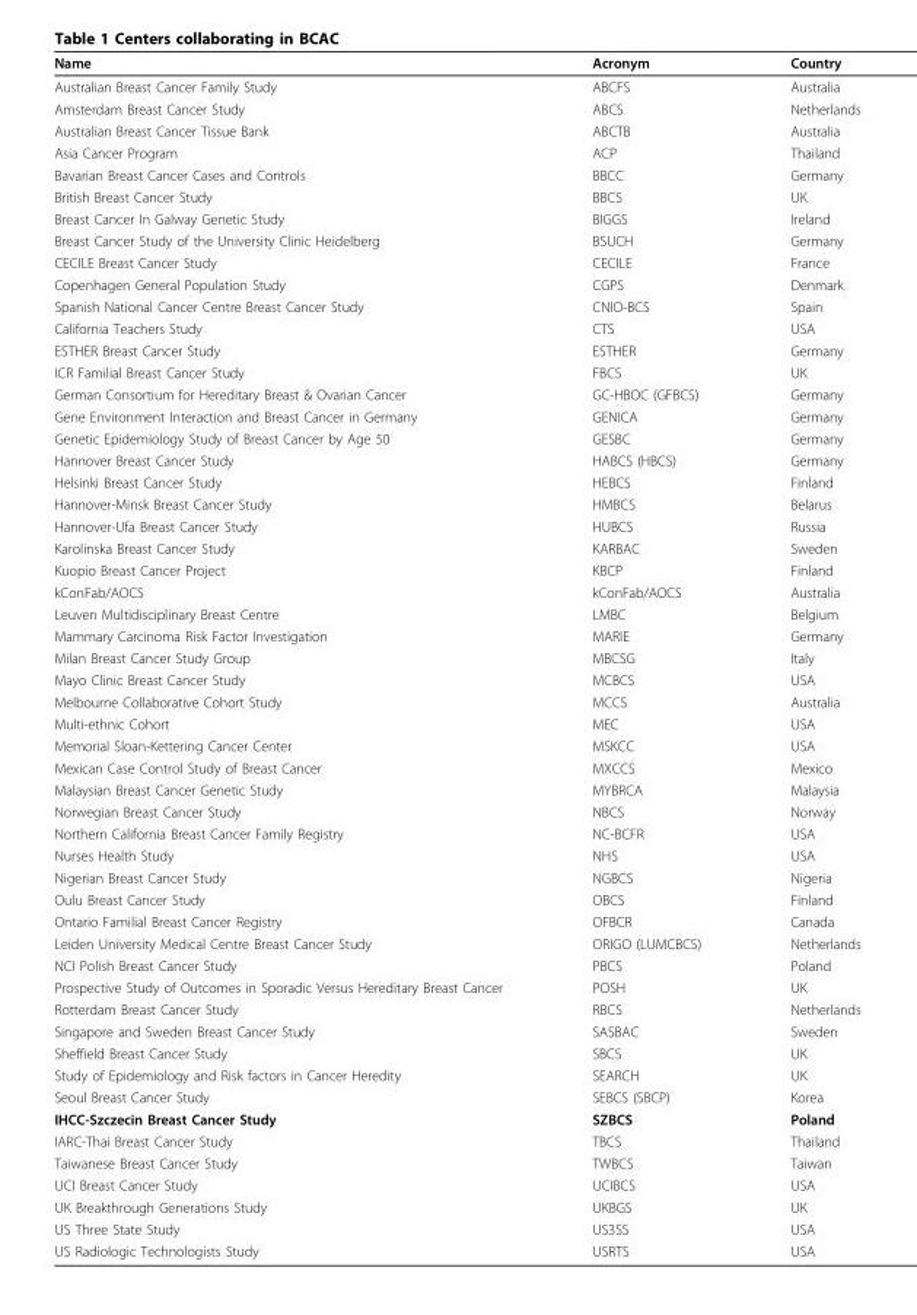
<table><thead><tr><td>Name</td><td>Acronym</td><td>Country</td></tr></thead><tbody><tr><td>Australian Breast Cancer Family Study</td><td>ABCFS</td><td>Australia</td></tr><tr><td>Amsterdam Breast Cancer Study</td><td>ABCS</td><td>Netherlands</td></tr><tr><td>Australian Breast Cancer Tissue Bank</td><td>ABCTB</td><td>Australia</td></tr><tr><td>Asia Cancer Program</td><td>ACP</td><td>Thailand</td></tr><tr><td>Bavarian Breast Cancer Cases and Controls</td><td>BBCC</td><td>Germany</td></tr><tr><td>British Breast Cancer Study</td><td>BBCS</td><td>UK</td></tr><tr><td>Breast Cancer In Galway Genetic Study</td><td>BIGGS</td><td>Ireland</td></tr><tr><td>Breast Cancer Study of the University Clinic Heidelberg</td><td>BSUCH</td><td>Germany</td></tr><tr><td>CECILE Breast Cancer Study</td><td>CECILE</td><td>France</td></tr><tr><td>Copenhagen General Population Study</td><td>CGPS</td><td>Denmark</td></tr><tr><td>Spanish National Cancer Centre Breast Cancer Study</td><td>CNIO-BCS</td><td>Spain</td></tr><tr><td>California Teachers Study</td><td>CTS</td><td>USA</td></tr><tr><td>ESTHER Breast Cancer Study</td><td>ESTHER</td><td>Germany</td></tr><tr><td>ICR Familial Breast Cancer Study</td><td>FBCS</td><td>UK</td></tr><tr><td>German Consortium for Hereditary Breast &amp; Ovarian Cancer</td><td>GC-HBOC (GFBCS)</td><td>Germany</td></tr><tr><td>Gene Environment Interaction and Breast Cancer in Germany</td><td>GENICA</td><td>Germany</td></tr><tr><td>Genetic Epidemiology Study of Breast Cancer by Age 50</td><td>GESBC</td><td>Germany</td></tr><tr><td>Hannover Breast Cancer Study</td><td>HABCS (HBCS)</td><td>Germany</td></tr><tr><td>Helsinki Breast Cancer Study</td><td>HEBCS</td><td>Finland</td></tr><tr><td>Hannover-Minsk Breast Cancer Study</td><td>HMBCS</td><td>Belarus</td></tr><tr><td>Hannover-Ufa Breast Cancer Study</td><td>HUBCS</td><td>Russia</td></tr><tr><td>Karolinska Breast Cancer Study</td><td>KARBAC</td><td>Sweden</td></tr><tr><td>Kuopio Breast Cancer Project</td><td>KBCP</td><td>Finland</td></tr><tr><td>kConFab/AOCS</td><td>kConFab/AOCS</td><td>Australia</td></tr><tr><td>Leuven Multidisciplinary Breast Centre</td><td>LMBC</td><td>Belgium</td></tr><tr><td>Mammary Carcinoma Risk Factor Investigation</td><td>MARIE</td><td>Germany</td></tr><tr><td>Milan Breast Cancer Study Group</td><td>MBCSG</td><td>Italy</td></tr><tr><td>Mayo Clinic Breast Cancer Study</td><td>MCBCS</td><td>USA</td></tr><tr><td>Melbourne Collaborative Cohort Study</td><td>MCCS</td><td>Australia</td></tr><tr><td>Multi-ethnic Cohort</td><td>MEC</td><td>USA</td></tr><tr><td>Memorial Sloan-Kettering Cancer Center</td><td>MSKCC</td><td>USA</td></tr><tr><td>Mexican Case Control Study of Breast Cancer</td><td>MXCCS</td><td>Mexico</td></tr><tr><td>Malaysian Breast Cancer Genetic Study</td><td>MYBRCA</td><td>Malaysia</td></tr><tr><td>Norwegian Breast Cancer Study</td><td>NBCS</td><td>Norway</td></tr><tr><td>Northern California Breast Cancer Family Registry</td><td>NC-BCFR</td><td>USA</td></tr><tr><td>Nurses Health Study</td><td>NHS</td><td>USA</td></tr><tr><td>Nigerian Breast Cancer Study</td><td>NGBCS</td><td>Nigeria</td></tr><tr><td>Oulu Breast Cancer Study</td><td>OBCS</td><td>Finland</td></tr><tr><td>Ontario Familial Breast Cancer Registry</td><td>OFBCR</td><td>Canada</td></tr><tr><td>Leiden University Medical Centre Breast Cancer Study</td><td>ORIGO (LUMCBCS)</td><td>Netherlands</td></tr><tr><td>NCI Polish Breast Cancer Study</td><td>PBCS</td><td>Poland</td></tr><tr><td>Prospective Study of Outcomes in Sporadic Versus Hereditary Breast Cancer</td><td>POSH</td><td>UK</td></tr><tr><td>Rotterdam Breast Cancer Study</td><td>RBCS</td><td>Netherlands</td></tr><tr><td>Singapore and Sweden Breast Cancer Study</td><td>SASBAC</td><td>Sweden</td></tr><tr><td>Sheffield Breast Cancer Study</td><td>SBCS</td><td>UK</td></tr><tr><td>Study of Epidemiology and Risk factors in Cancer Heredity</td><td>SEARCH</td><td>UK</td></tr><tr><td>Seoul Breast Cancer Study</td><td>SEBCS (SBCP)</td><td>Korea</td></tr><tr><td>IHCC-Szczecin Breast Cancer Study</td><td>SZBCS</td><td>Poland</td></tr><tr><td>IARC-Thai Breast Cancer Study</td><td>TBCS</td><td>Thailand</td></tr><tr><td>Taiwanese Breast Cancer Study</td><td>TWBCS</td><td>Taiwan</td></tr><tr><td>UCI Breast Cancer Study</td><td>UCIBCS</td><td>USA</td></tr><tr><td>UK Breakthrough Generations Study</td><td>UKBGS</td><td>UK</td></tr><tr><td>US Three State Study</td><td>US3SS</td><td>USA</td></tr><tr><td>US Radiologic Technologists Study</td><td>USRTS</td><td>USA</td></tr></tbody></table>